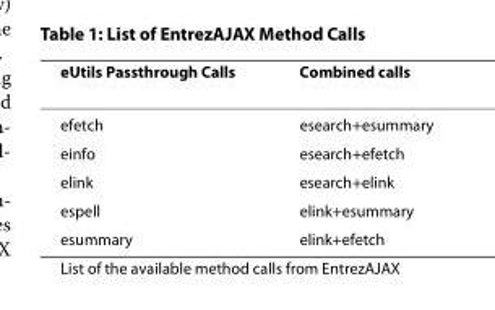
<table><thead><tr><td>eUtils Passthrough Calls</td><td>Combined calls</td></tr></thead><tbody><tr><td>efetch</td><td>esearch+esummary</td></tr><tr><td>einfo</td><td>esearch+efetch</td></tr><tr><td>elink</td><td>esearch+elink</td></tr><tr><td>espell</td><td>elink+esummary</td></tr><tr><td>esummary</td><td>elink+efetch</td></tr></tbody></table>